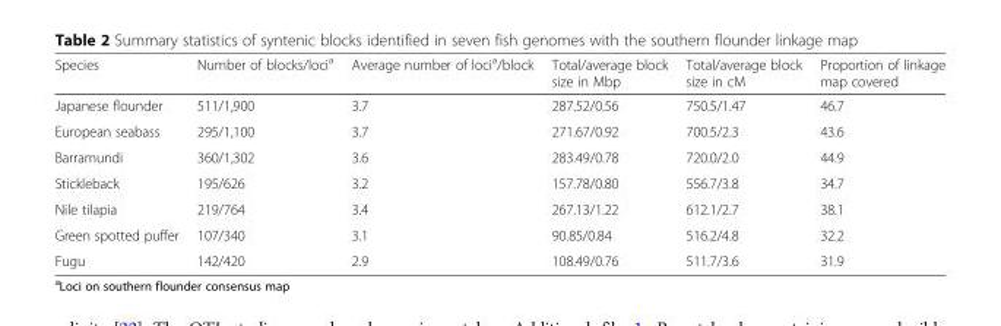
<table><thead><tr><td>Species</td><td>Number of blocks/loci<sup>a</sup></td><td>Average number of loci<sup>a</sup>/block</td><td>Total/average block size in Mbp</td><td>Total/average block size in cM</td><td>Proportion of linkage map covered</td></tr></thead><tbody><tr><td>Japanese flounder</td><td>511/1,900</td><td>3.7</td><td>287.52/0.56</td><td>750.5/1.47</td><td>46.7</td></tr><tr><td>European seabass</td><td>295/1,100</td><td>3.7</td><td>271.67/0.92</td><td>700.5/2.3</td><td>43.6</td></tr><tr><td>Barramundi</td><td>360/1,302</td><td>3.6</td><td>283.49/0.78</td><td>720.0/2.0</td><td>44.9</td></tr><tr><td>Stickleback</td><td>195/626</td><td>3.2</td><td>157.78/0.80</td><td>556.7/3.8</td><td>34.7</td></tr><tr><td>Nile tilapia</td><td>219/764</td><td>3.4</td><td>267.13/1.22</td><td>612.1/2.7</td><td>38.1</td></tr><tr><td>Green spotted puffer</td><td>107/340</td><td>3.1</td><td>90.85/0.84</td><td>516.2/4.8</td><td>32.2</td></tr><tr><td>Fugu</td><td>142/420</td><td>2.9</td><td>108.49/0.76</td><td>511.7/3.6</td><td>31.9</td></tr></tbody></table>